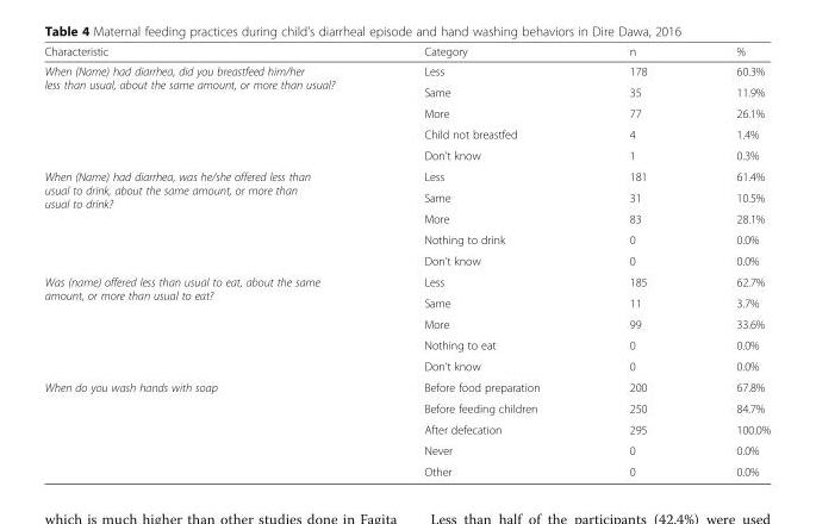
<table><thead><tr><td>Characteristic</td><td>Category</td><td>n</td><td>%</td></tr></thead><tbody><tr><td rowspan="5">When (Name) had diarrhea, did you breastfeed him/her less than usual, about the same amount, or more than usual?</td><td>Less</td><td>178</td><td>60.3%</td></tr><tr><td>Same</td><td>35</td><td>11.9%</td></tr><tr><td>More</td><td>77</td><td>26.1%</td></tr><tr><td>Child not breastfed</td><td>4</td><td>1.4%</td></tr><tr><td>Don’t know</td><td>1</td><td>0.3%</td></tr><tr><td rowspan="5">When (Name) had diarrhea, was he/she offered less than usual to drink, about the same amount, or more than usual to drink?</td><td>Less</td><td>181</td><td>61.4%</td></tr><tr><td>Same</td><td>31</td><td>10.5%</td></tr><tr><td>More</td><td>83</td><td>28.1%</td></tr><tr><td>Nothing to drink</td><td>0</td><td>0.0%</td></tr><tr><td>Don’t know</td><td>0</td><td>0.0%</td></tr><tr><td rowspan="5">Was (name) offered less than usual to eat, about the same amount, or more than usual to eat?</td><td>Less</td><td>185</td><td>62.7%</td></tr><tr><td>Same</td><td>11</td><td>3.7%</td></tr><tr><td>More</td><td>99</td><td>33.6%</td></tr><tr><td>Nothing to eat</td><td>0</td><td>0.0%</td></tr><tr><td>Don’t know</td><td>0</td><td>0.0%</td></tr><tr><td rowspan="5">When do you wash hands with soap</td><td>Before food preparation</td><td>200</td><td>67.8%</td></tr><tr><td>Before feeding children</td><td>250</td><td>84.7%</td></tr><tr><td>After defecation</td><td>295</td><td>100.0%</td></tr><tr><td>Never</td><td>0</td><td>0.0%</td></tr><tr><td>Other</td><td>0</td><td>0.0%</td></tr></tbody></table>